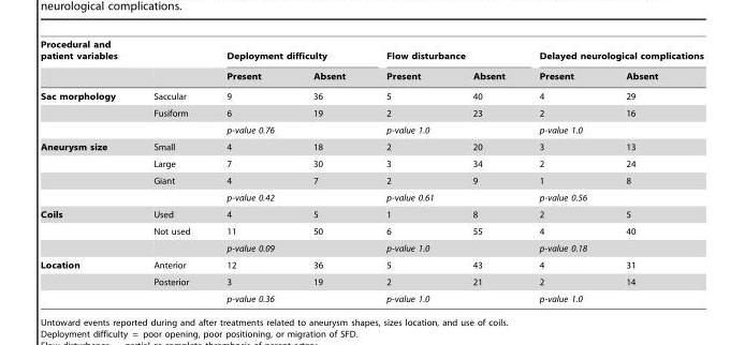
<table><thead><tr><td rowspan="2">Procedural and patient variables</td><td rowspan="2"></td><td colspan="2">Deployment difficulty</td><td colspan="2">Flow disturbance</td><td colspan="2">Delayed neurological complications</td></tr><tr><td>Present</td><td>Absent</td><td>Present</td><td>Absent</td><td>Present</td><td>Absent</td></tr></thead><tbody><tr><td rowspan="3">Sac morphology</td><td>Saccular</td><td>9</td><td>36</td><td>5</td><td>40</td><td>4</td><td>29</td></tr><tr><td>Fusiform</td><td>6</td><td>19</td><td>2</td><td>23</td><td>2</td><td>16</td></tr><tr><td></td><td colspan="2">p-value 0.76</td><td colspan="2">p-value 1.0</td><td colspan="2">p-value 1.0</td></tr><tr><td rowspan="4">Aneurysm size</td><td>Small</td><td>4</td><td>18</td><td>2</td><td>20</td><td>3</td><td>13</td></tr><tr><td>Large</td><td>7</td><td>30</td><td>3</td><td>34</td><td>2</td><td>24</td></tr><tr><td>Giant</td><td>4</td><td>7</td><td>2</td><td>9</td><td>1</td><td>8</td></tr><tr><td></td><td colspan="2">p-value 0.42</td><td colspan="2">p-value 0.61</td><td colspan="2">p-value 0.56</td></tr><tr><td rowspan="3">Coils</td><td>Used</td><td>4</td><td>5</td><td>1</td><td>8</td><td>2</td><td>5</td></tr><tr><td>Not used</td><td>11</td><td>50</td><td>6</td><td>55</td><td>4</td><td>40</td></tr><tr><td></td><td colspan="2">p-value 0.09</td><td colspan="2">p-value 1.0</td><td colspan="2">p-value 0.18</td></tr><tr><td rowspan="3">Location</td><td>Anterior</td><td>12</td><td>36</td><td>5</td><td>43</td><td>4</td><td>31</td></tr><tr><td>Posterior</td><td>3</td><td>19</td><td>2</td><td>21</td><td>2</td><td>14</td></tr><tr><td></td><td colspan="2">p-value 0.36</td><td colspan="2">p-value 1.0</td><td colspan="2">p-value 1.0</td></tr></tbody></table>